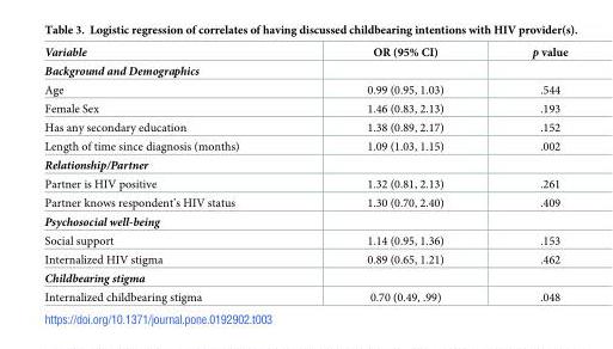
<table><thead><tr><td>Variable</td><td>OR (95% CI)</td><td>p value</td></tr></thead><tbody><tr><td colspan="3">Background and Demographics</td></tr><tr><td>Age</td><td>0.99 (0.95, 1.03)</td><td>.544</td></tr><tr><td>Female Sex</td><td>1.46 (0.83, 2.13)</td><td>.193</td></tr><tr><td>Has any secondary education</td><td>1.38 (0.89, 2.17)</td><td>.152</td></tr><tr><td>Length of time since diagnosis (months)</td><td>1.09 (1.03, 1.15)</td><td>.002</td></tr><tr><td colspan="3">Relationship/Partner</td></tr><tr><td>Partner is HIV positive</td><td>1.32 (0.81, 2.13)</td><td>.261</td></tr><tr><td>Partner knows respondent’s HIV status</td><td>1.30 (0.70, 2.40)</td><td>.409</td></tr><tr><td colspan="3">Psychosocial well-being</td></tr><tr><td>Social support</td><td>1.14 (0.95, 1.36)</td><td>.153</td></tr><tr><td>Internalized HIV stigma</td><td>0.89 (0.65, 1.21)</td><td>.462</td></tr><tr><td colspan="3">Childbearing stigma</td></tr><tr><td>Internalized childbearing stigma</td><td>0.70 (0.49, .99)</td><td>.048</td></tr></tbody></table>